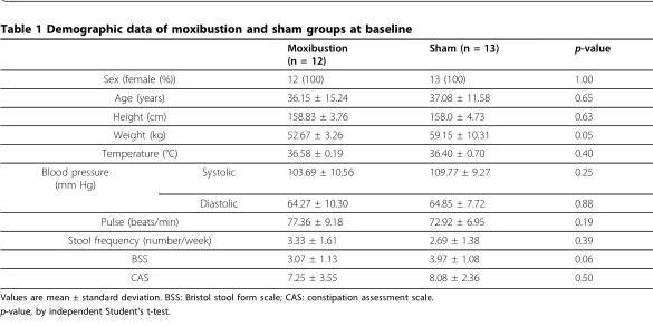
<table><thead><tr><td></td><td></td><td>Moxibustion (n = 12)</td><td>Sham (n = 13)</td><td>p-value</td></tr></thead><tbody><tr><td colspan="2">Sex (female (%))</td><td>12 (100)</td><td>13 (100)</td><td>1.00</td></tr><tr><td colspan="2">Age (years)</td><td>36.15 ± 15.24</td><td>37.08 ± 11.58</td><td>0.65</td></tr><tr><td colspan="2">Height (cm)</td><td>158.83 ± 3.76</td><td>158.0 ± 4.73</td><td>0.63</td></tr><tr><td colspan="2">Weight (kg)</td><td>52.67 ± 3.26</td><td>59.15 ± 10.31</td><td>0.05</td></tr><tr><td colspan="2">Temperature (°C)</td><td>36.58 ± 0.19</td><td>36.40 ± 0.70</td><td>0.40</td></tr><tr><td rowspan="2">Blood pressure (mm Hg)</td><td>Systolic</td><td>103.69 ± 10.56</td><td>109.77 ± 9.27</td><td>0.25</td></tr><tr><td>Diastolic</td><td>64.27 ± 10.30</td><td>64.85 ± 7.72</td><td>0.88</td></tr><tr><td colspan="2">Pulse (beats/min)</td><td>77.36 ± 9.18</td><td>72.92 ± 6.95</td><td>0.19</td></tr><tr><td colspan="2">Stool frequency (number/week)</td><td>3.33 ± 1.61</td><td>2.69 ± 1.38</td><td>0.39</td></tr><tr><td colspan="2">BSS</td><td>3.07 ± 1.13</td><td>3.97 ± 1.08</td><td>0.06</td></tr><tr><td colspan="2">CAS</td><td>7.25 ± 3.55</td><td>8.08 ± 2.36</td><td>0.50</td></tr></tbody></table>